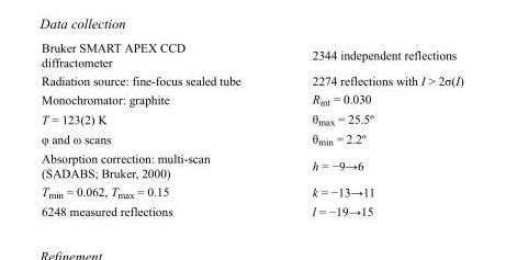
<table><tbody><tr><td>Bruker SMART APEX CCD diffractometer</td><td>2344 independent reflections</td></tr><tr><td>Radiation source: fine-focus sealed tube</td><td>2274 reflections with I &gt; 2σ(I)</td></tr><tr><td>Monochromator: graphite</td><td>R<sub>int</sub> = 0.030</td></tr><tr><td>T = 123(2) K</td><td>θ<sub>max</sub> = 25.5º</td></tr><tr><td>φ and ω scans</td><td>θ<sub>min</sub> = 2.2º</td></tr><tr><td>Absorption correction: multi-scan (SADABS; Bruker, 2000)</td><td>h = −9→6</td></tr><tr><td>T<sub>min</sub> = 0.062, T<sub>max</sub> = 0.15</td><td>k = −13→11</td></tr><tr><td>6248 measured reflections</td><td>l = −19→15</td></tr></tbody></table>